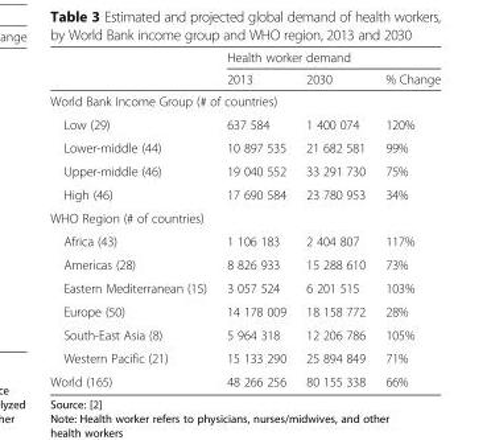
<table><thead><tr><td rowspan="2"></td><td colspan="3">Health worker demand</td></tr><tr><td>2013</td><td>2030</td><td>% Change</td></tr></thead><tbody><tr><td colspan="4">World Bank Income Group (# of countries)</td></tr><tr><td>Low (29)</td><td>637 584</td><td>1 400 074</td><td>120%</td></tr><tr><td>Lower-middle (44)</td><td>10 897 535</td><td>21 682 581</td><td>99%</td></tr><tr><td>Upper-middle (46)</td><td>19 040 552</td><td>33 291 730</td><td>75%</td></tr><tr><td>High (46)</td><td>17 690 584</td><td>23 780 953</td><td>34%</td></tr><tr><td colspan="4">WHO Region (# of countries)</td></tr><tr><td>Africa (43)</td><td>1 106 183</td><td>2 404 807</td><td>117%</td></tr><tr><td>Americas (28)</td><td>8 826 933</td><td>15 288 610</td><td>73%</td></tr><tr><td>Eastern Mediterranean (15)</td><td>3 057 524</td><td>6 201 515</td><td>103%</td></tr><tr><td>Europe (50)</td><td>14 178 009</td><td>18 158 772</td><td>28%</td></tr><tr><td>South-East Asia (8)</td><td>5 964 318</td><td>12 206 786</td><td>105%</td></tr><tr><td>Western Pacific (21)</td><td>15 133 290</td><td>25 894 849</td><td>71%</td></tr><tr><td>World (165)</td><td>48 266 256</td><td>80 155 338</td><td>66%</td></tr></tbody></table>